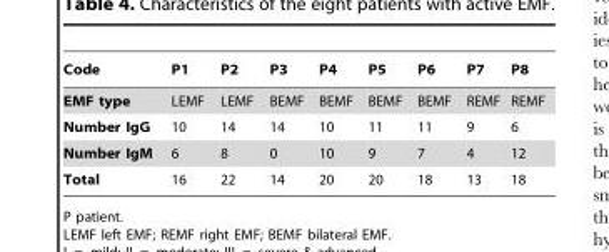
<table><thead><tr><td>Code</td><td>P1</td><td>P2</td><td>P3</td><td>P4</td><td>P5</td><td>P6</td><td>P7</td><td>P8</td></tr></thead><tbody><tr><td>EMF type</td><td>LEMF</td><td>LEMF</td><td>BEMF</td><td>BEMF</td><td>BEMF</td><td>BEMF</td><td>REMF</td><td>REMF</td></tr><tr><td>Number IgG</td><td>10</td><td>14</td><td>14</td><td>10</td><td>11</td><td>11</td><td>9</td><td>6</td></tr><tr><td>Number IgM</td><td>6</td><td>8</td><td>0</td><td>10</td><td>9</td><td>7</td><td>4</td><td>12</td></tr><tr><td>Total</td><td>16</td><td>22</td><td>14</td><td>20</td><td>20</td><td>18</td><td>13</td><td>18</td></tr></tbody></table>